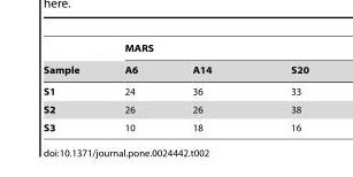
<table><thead><tr><td rowspan="2">Sample</td><td colspan="3">MARS</td></tr><tr><td>A6</td><td>A14</td><td>S20</td></tr></thead><tbody><tr><td>S1</td><td>24</td><td>36</td><td>33</td></tr><tr><td>S2</td><td>26</td><td>26</td><td>38</td></tr><tr><td>S3</td><td>10</td><td>18</td><td>16</td></tr></tbody></table>